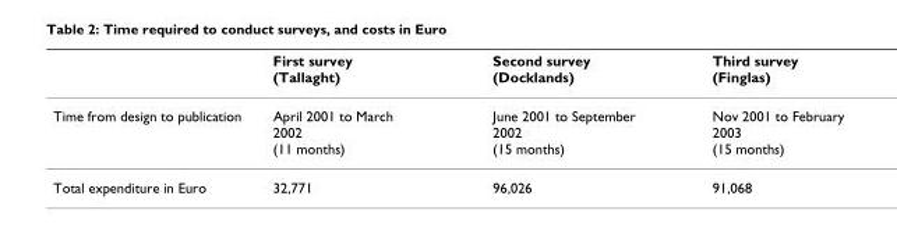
<table><thead><tr><td></td><td>First survey (Tallaght)</td><td>Second survey (Docklands)</td><td>Third survey (Finglas)</td></tr></thead><tbody><tr><td>Time from design to publication</td><td>April 2001 to March 2002 (11 months)</td><td>June 2001 to September 2002 (15 months)</td><td>Nov 2001 to February 2003 (15 months)</td></tr><tr><td>Total expenditure in Euro</td><td>32,771</td><td>96,026</td><td>91,068</td></tr></tbody></table>